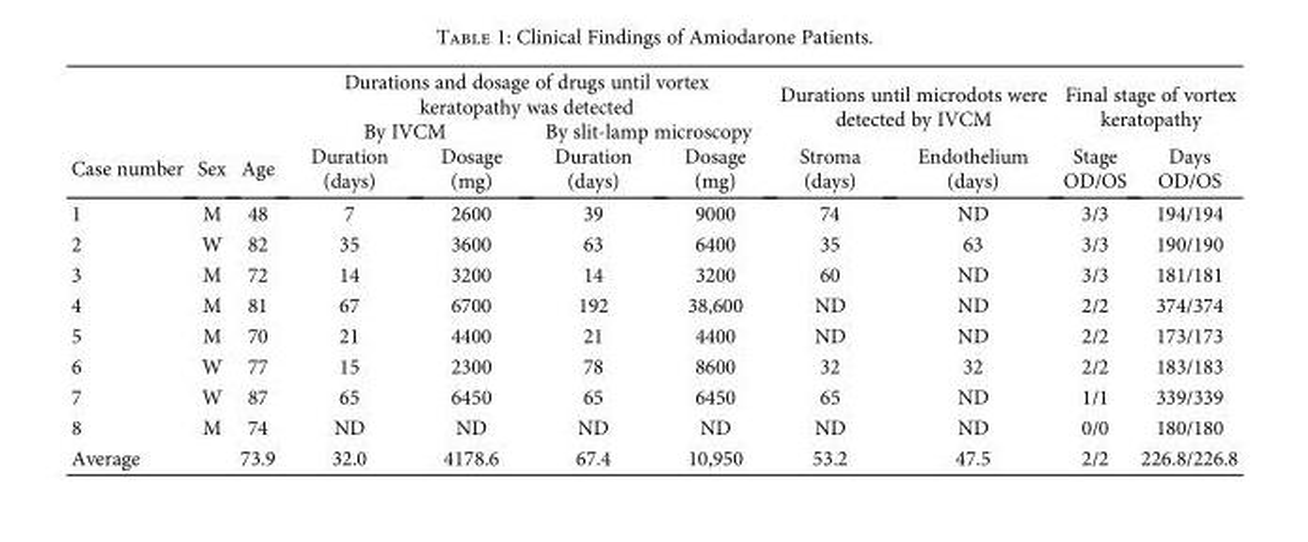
<table><thead><tr><td rowspan="3">Case number</td><td rowspan="3">Sex</td><td rowspan="3">Age</td><td colspan="4">Durations and dosage of drugs until vortex keratopathy was detected</td><td rowspan="2" colspan="2">Durations until microdots were detected by IVCM</td><td rowspan="2" colspan="2">Final stage of vortex keratopathy</td></tr><tr><td colspan="2">By IVCM</td><td colspan="2">By slit-lamp microscopy</td></tr><tr><td>Duration (days)</td><td>Dosage (mg)</td><td>Duration (days)</td><td>Dosage (mg)</td><td>Stroma (days)</td><td>Endothelium (days)</td><td>Stage OD/OS</td><td>Days OD/OS</td></tr></thead><tbody><tr><td>1</td><td>M</td><td>48</td><td>7</td><td>2600</td><td>39</td><td>9000</td><td>74</td><td>ND</td><td>3/3</td><td>194/194</td></tr><tr><td>2</td><td>W</td><td>82</td><td>35</td><td>3600</td><td>63</td><td>6400</td><td>35</td><td>63</td><td>3/3</td><td>190/190</td></tr><tr><td>3</td><td>M</td><td>72</td><td>14</td><td>3200</td><td>14</td><td>3200</td><td>60</td><td>ND</td><td>3/3</td><td>181/181</td></tr><tr><td>4</td><td>M</td><td>81</td><td>67</td><td>6700</td><td>192</td><td>38,600</td><td>ND</td><td>ND</td><td>2/2</td><td>374/374</td></tr><tr><td>5</td><td>M</td><td>70</td><td>21</td><td>4400</td><td>21</td><td>4400</td><td>ND</td><td>ND</td><td>2/2</td><td>173/173</td></tr><tr><td>6</td><td>W</td><td>77</td><td>15</td><td>2300</td><td>78</td><td>8600</td><td>32</td><td>32</td><td>2/2</td><td>183/183</td></tr><tr><td>7</td><td>W</td><td>87</td><td>65</td><td>6450</td><td>65</td><td>6450</td><td>65</td><td>ND</td><td>1/1</td><td>339/339</td></tr><tr><td>8</td><td>M</td><td>74</td><td>ND</td><td>ND</td><td>ND</td><td>ND</td><td>ND</td><td>ND</td><td>0/0</td><td>180/180</td></tr><tr><td>Average</td><td></td><td>73.9</td><td>32.0</td><td>4178.6</td><td>67.4</td><td>10,950</td><td>53.2</td><td>47.5</td><td>2/2</td><td>226.8/226.8</td></tr></tbody></table>